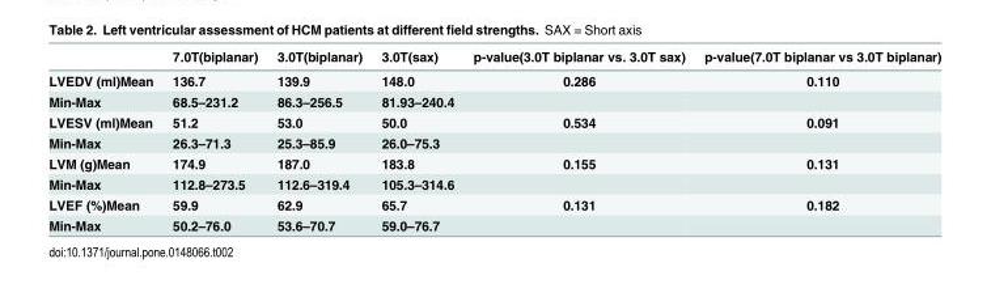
<table><thead><tr><td></td><td>7.0T(biplanar)</td><td>3.0T(biplanar)</td><td>3.0T(sax)</td><td>p-value(3.0T biplanar vs. 3.0T sax)</td><td>p-value(7.0T biplanar vs 3.0T biplanar)</td></tr></thead><tbody><tr><td>LVEDV (ml)Mean</td><td>136.7</td><td>139.9</td><td>148.0</td><td>0.286</td><td>0.110</td></tr><tr><td>Min-Max</td><td>68.5–231.2</td><td>86.3–256.5</td><td>81.93–240.4</td><td></td><td></td></tr><tr><td>LVESV (ml)Mean</td><td>51.2</td><td>53.0</td><td>50.0</td><td>0.534</td><td>0.091</td></tr><tr><td>Min-Max</td><td>26.3–71.3</td><td>25.3–85.9</td><td>26.0–75.3</td><td></td><td></td></tr><tr><td>LVM (g)Mean</td><td>174.9</td><td>187.0</td><td>183.8</td><td>0.155</td><td>0.131</td></tr><tr><td>Min-Max</td><td>112.8–273.5</td><td>112.6–319.4</td><td>105.3–314.6</td><td></td><td></td></tr><tr><td>LVEF (%)Mean</td><td>59.9</td><td>62.9</td><td>65.7</td><td>0.131</td><td>0.182</td></tr><tr><td>Min-Max</td><td>50.2–76.0</td><td>53.6–70.7</td><td>59.0–76.7</td><td></td><td></td></tr></tbody></table>